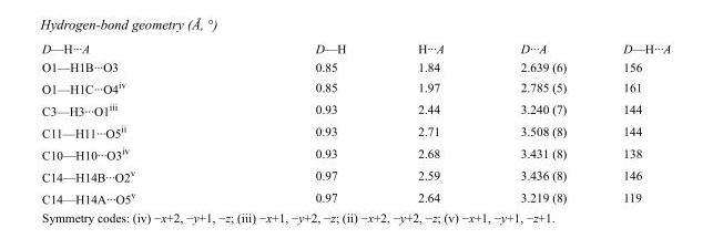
<table><tbody><tr><td>D—H···A</td><td>D—H</td><td>H···A</td><td>D···A</td><td>D—H···A</td></tr><tr><td>O1—H1B···O3</td><td>0.85</td><td>1.84</td><td>2.639 (6)</td><td>156</td></tr><tr><td>O1—H1C···O4<sup>iv</sup></td><td>0.85</td><td>1.97</td><td>2.785 (5)</td><td>161</td></tr><tr><td>C3—H3···O1<sup>iii</sup></td><td>0.93</td><td>2.44</td><td>3.240 (7)</td><td>144</td></tr><tr><td>C11—H11···O5<sup>ii</sup></td><td>0.93</td><td>2.71</td><td>3.508 (8)</td><td>144</td></tr><tr><td>C10—H10···O3<sup>iv</sup></td><td>0.93</td><td>2.68</td><td>3.431 (8)</td><td>138</td></tr><tr><td>C14—H14B···O2<sup>v</sup></td><td>0.97</td><td>2.59</td><td>3.436 (8)</td><td>146</td></tr><tr><td>C14—H14A···O5<sup>v</sup></td><td>0.97</td><td>2.64</td><td>3.219 (8)</td><td>119</td></tr></tbody></table>